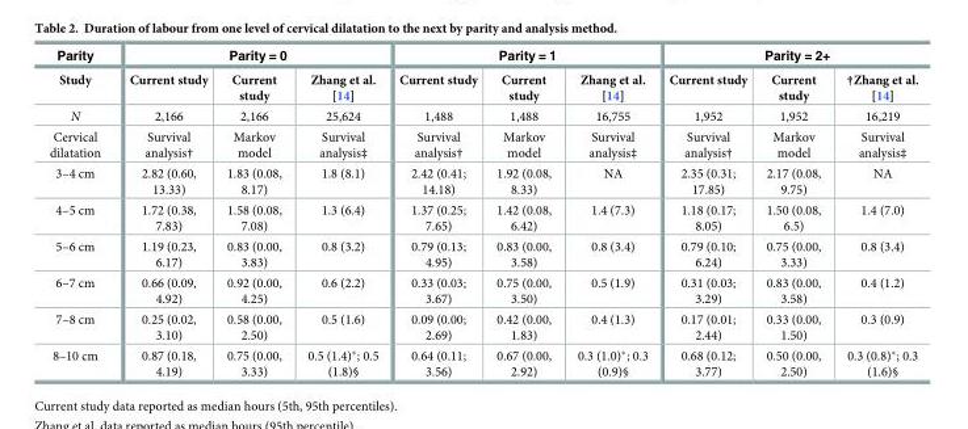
<table><thead><tr><td rowspan="2">Parity Study</td><td colspan="3">Parity = 0</td><td colspan="3">Parity = 1</td><td colspan="3">Parity = 2+</td></tr><tr><td>Current study</td><td>Current study</td><td>Zhang et al. [14]</td><td>Current study</td><td>Current study</td><td>Zhang et al. [14]</td><td>Current study</td><td>Current study</td><td>†Zhang et al. [14]</td></tr></thead><tbody><tr><td>N</td><td>2,166</td><td>2,166</td><td>25,624</td><td>1,488</td><td>1,488</td><td>16,755</td><td>1,952</td><td>1,952</td><td>16,219</td></tr><tr><td>Cervical dilatation</td><td>Survival analysis†</td><td>Markov model</td><td>Survival analysis‡</td><td>Survival analysis†</td><td>Markov model</td><td>Survival analysis‡</td><td>Survival analysis†</td><td>Markov model</td><td>Survival analysis‡</td></tr><tr><td>3–4 cm</td><td>2.82 (0.60, 13.33)</td><td>1.83 (0.08, 8.17)</td><td>1.8 (8.1)</td><td>2.42 (0.41; 14.18)</td><td>1.92 (0.08, 8.33)</td><td>NA</td><td>2.35 (0.31; 17.85)</td><td>2.17 (0.08, 9.75)</td><td>NA</td></tr><tr><td>4–5 cm</td><td>1.72 (0.38, 7.83)</td><td>1.58 (0.08, 7.08)</td><td>1.3 (6.4)</td><td>1.37 (0.25; 7.65)</td><td>1.42 (0.08, 6.42)</td><td>1.4 (7.3)</td><td>1.18 (0.17; 8.05)</td><td>1.50 (0.08, 6.5)</td><td>1.4 (7.0)</td></tr><tr><td>5–6 cm</td><td>1.19 (0.23, 6.17)</td><td>0.83 (0.00, 3.83)</td><td>0.8 (3.2)</td><td>0.79 (0.13; 4.95)</td><td>0.83 (0.00, 3.58)</td><td>0.8 (3.4)</td><td>0.79 (0.10; 6.24)</td><td>0.75 (0.00, 3.33)</td><td>0.8 (3.4)</td></tr><tr><td>6–7 cm</td><td>0.66 (0.09, 4.92)</td><td>0.92 (0.00, 4.25)</td><td>0.6 (2.2)</td><td>0.33 (0.03; 3.67)</td><td>0.75 (0.00, 3.50)</td><td>0.5 (1.9)</td><td>0.31 (0.03; 3.29)</td><td>0.83 (0.00, 3.58)</td><td>0.4 (1.2)</td></tr><tr><td>7–8 cm</td><td>0.25 (0.02, 3.10)</td><td>0.58 (0.00, 2.50)</td><td>0.5 (1.6)</td><td>0.09 (0.00; 2.69)</td><td>0.42 (0.00, 1.83)</td><td>0.4 (1.3)</td><td>0.17 (0.01; 2.44)</td><td>0.33 (0.00, 1.50)</td><td>0.3 (0.9)</td></tr><tr><td>8–10 cm</td><td>0.87 (0.18, 4.19)</td><td>0.75 (0.00, 3.33)</td><td>0.5 (1.4)*; 0.5 (1.8)§</td><td>0.64 (0.11; 3.56)</td><td>0.67 (0.00, 2.92)</td><td>0.3 (1.0)*; 0.3 (0.9)§</td><td>0.68 (0.12; 3.77)</td><td>0.50 (0.00, 2.50)</td><td>0.3 (0.8)*; 0.3 (1.6)§</td></tr></tbody></table>